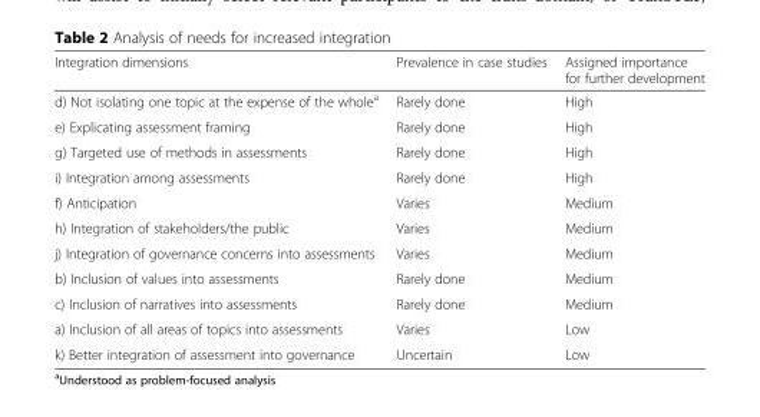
<table><thead><tr><td>Integration dimensions</td><td>Prevalence in case studies</td><td>Assigned importance for further development</td></tr></thead><tbody><tr><td>d) Not isolating one topic at the expense of the whole<sup>a</sup></td><td>Rarely done</td><td>High</td></tr><tr><td>e) Explicating assessment framing</td><td>Rarely done</td><td>High</td></tr><tr><td>g) Targeted use of methods in assessments</td><td>Rarely done</td><td>High</td></tr><tr><td>i) Integration among assessments</td><td>Rarely done</td><td>High</td></tr><tr><td>f) Anticipation</td><td>Varies</td><td>Medium</td></tr><tr><td>h) Integration of stakeholders/the public</td><td>Varies</td><td>Medium</td></tr><tr><td>j) Integration of governance concerns into assessments</td><td>Varies</td><td>Medium</td></tr><tr><td>b) Inclusion of values into assessments</td><td>Rarely done</td><td>Medium</td></tr><tr><td>c) Inclusion of narratives into assessments</td><td>Rarely done</td><td>Medium</td></tr><tr><td>a) Inclusion of all areas of topics into assessments</td><td>Varies</td><td>Low</td></tr><tr><td>k) Better integration of assessment into governance</td><td>Uncertain</td><td>Low</td></tr></tbody></table>